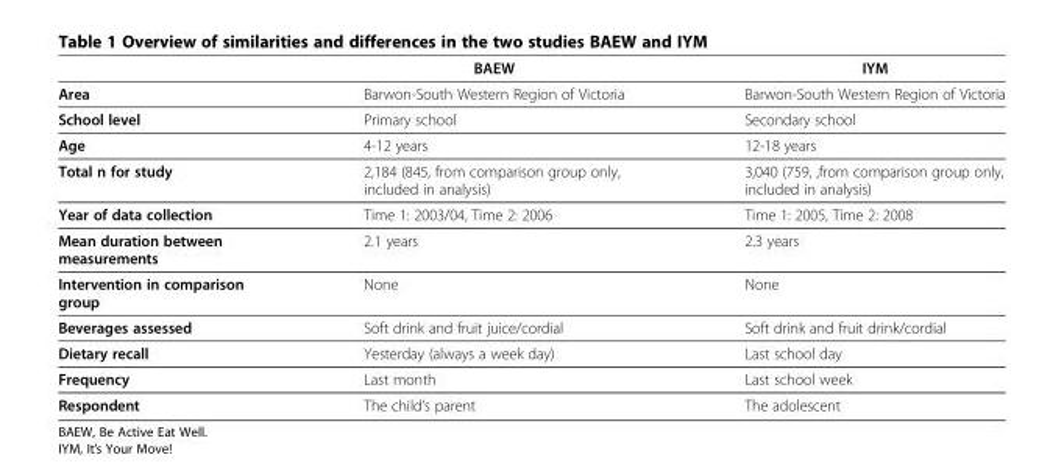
<table><thead><tr><td></td><td>BAEW</td><td>IYM</td></tr></thead><tbody><tr><td>Area</td><td>Barwon-South Western Region of Victoria</td><td>Barwon-South Western Region of Victoria</td></tr><tr><td>School level</td><td>Primary school</td><td>Secondary school</td></tr><tr><td>Age</td><td>4-12 years</td><td>12-18 years</td></tr><tr><td>Total n for study</td><td>2,184 (845, from comparison group only, included in analysis)</td><td>3,040 (759, ,from comparison group only, included in analysis)</td></tr><tr><td>Year of data collection</td><td>Time 1: 2003/04, Time 2: 2006</td><td>Time 1: 2005, Time 2: 2008</td></tr><tr><td>Mean duration between measurements</td><td>2.1 years</td><td>2.3 years</td></tr><tr><td>Intervention in comparison group</td><td>None</td><td>None</td></tr><tr><td>Beverages assessed</td><td>Soft drink and fruit juice/cordial</td><td>Soft drink and fruit drink/cordial</td></tr><tr><td>Dietary recall</td><td>Yesterday (always a week day)</td><td>Last school day</td></tr><tr><td>Frequency</td><td>Last month</td><td>Last school week</td></tr><tr><td>Respondent</td><td>The child’s parent</td><td>The adolescent</td></tr></tbody></table>